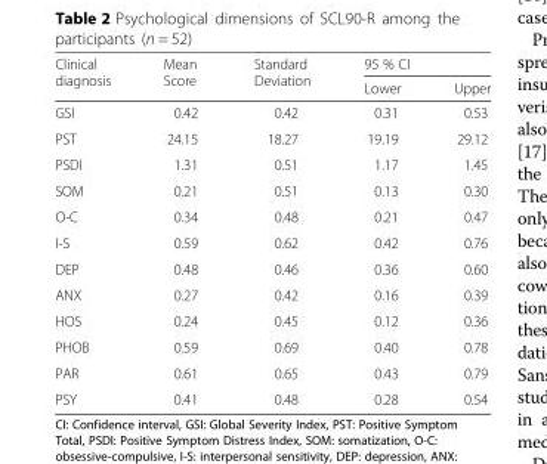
<table><thead><tr><td rowspan="2">Clinical diagnosis</td><td rowspan="2">Mean Score</td><td rowspan="2">Standard Deviation</td><td colspan="2">95 % CI</td></tr><tr><td>Lower</td><td>Upper</td></tr></thead><tbody><tr><td>GSI</td><td>0.42</td><td>0.42</td><td>0.31</td><td>0.53</td></tr><tr><td>PST</td><td>24.15</td><td>18.27</td><td>19.19</td><td>29.12</td></tr><tr><td>PSDI</td><td>1.31</td><td>0.51</td><td>1.17</td><td>1.45</td></tr><tr><td>SOM</td><td>0.21</td><td>0.51</td><td>0.13</td><td>0.30</td></tr><tr><td>O-C</td><td>0.34</td><td>0.48</td><td>0.21</td><td>0.47</td></tr><tr><td>I-S</td><td>0.59</td><td>0.62</td><td>0.42</td><td>0.76</td></tr><tr><td>DEP</td><td>0.48</td><td>0.46</td><td>0.36</td><td>0.60</td></tr><tr><td>ANX</td><td>0.27</td><td>0.42</td><td>0.16</td><td>0.39</td></tr><tr><td>HOS</td><td>0.24</td><td>0.45</td><td>0.12</td><td>0.36</td></tr><tr><td>PHOB</td><td>0.59</td><td>0.69</td><td>0.40</td><td>0.78</td></tr><tr><td>PAR</td><td>0.61</td><td>0.65</td><td>0.43</td><td>0.79</td></tr><tr><td>PSY</td><td>0.41</td><td>0.48</td><td>0.28</td><td>0.54</td></tr></tbody></table>